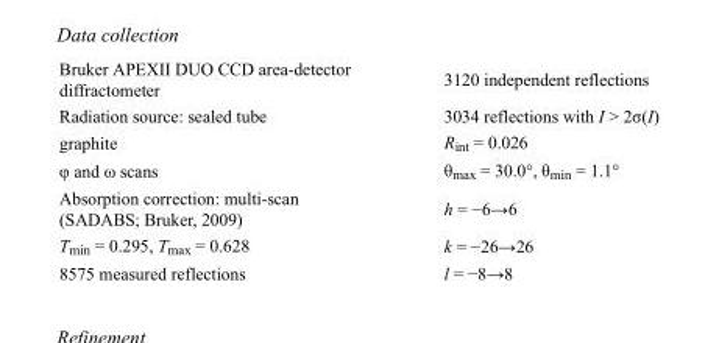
<table><tbody><tr><td>Bruker APEXII DUO CCD area-detector diffractometer</td><td>3120 independent reflections</td></tr><tr><td>Radiation source: sealed tube</td><td>3034 reflections with I &gt; 2σ(I)</td></tr><tr><td>graphite</td><td>R<sub>int</sub> = 0.026</td></tr><tr><td>φ and ω scans</td><td>θ<sub>max</sub> = 30.0°, θ<sub>min</sub> = 1.1°</td></tr><tr><td>Absorption correction: multi-scan (SADABS; Bruker, 2009)</td><td>h = −6→6</td></tr><tr><td>T<sub>min</sub> = 0.295, T<sub>max</sub> = 0.628</td><td>k = −26→26</td></tr><tr><td>8575 measured reflections</td><td>l = −8→8</td></tr></tbody></table>